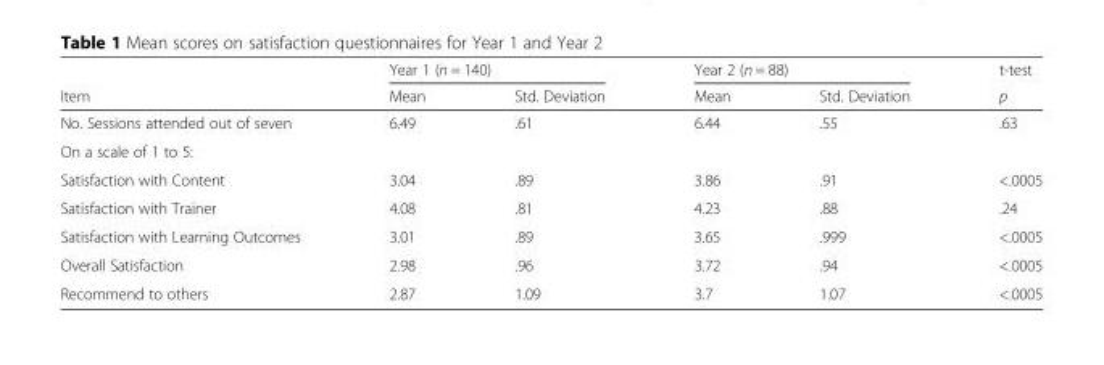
<table><thead><tr><td rowspan="2">Item</td><td colspan="2">Year 1 (n = 140)</td><td colspan="2">Year 2 (n = 88)</td><td rowspan="2">t-test p</td></tr><tr><td>Mean</td><td>Std. Deviation</td><td>Mean</td><td>Std. Deviation</td></tr></thead><tbody><tr><td>No. Sessions attended out of seven</td><td>6.49</td><td>.61</td><td>6.44</td><td>.55</td><td>.63</td></tr><tr><td colspan="6">On a scale of 1 to 5:</td></tr><tr><td>Satisfaction with Content</td><td>3.04</td><td>.89</td><td>3.86</td><td>.91</td><td>&lt;.0005</td></tr><tr><td>Satisfaction with Trainer</td><td>4.08</td><td>.81</td><td>4.23</td><td>.88</td><td>.24</td></tr><tr><td>Satisfaction with Learning Outcomes</td><td>3.01</td><td>.89</td><td>3.65</td><td>.999</td><td>&lt;.0005</td></tr><tr><td>Overall Satisfaction</td><td>2.98</td><td>.96</td><td>3.72</td><td>.94</td><td>&lt;.0005</td></tr><tr><td>Recommend to others</td><td>2.87</td><td>1.09</td><td>3.7</td><td>1.07</td><td>&lt;.0005</td></tr></tbody></table>